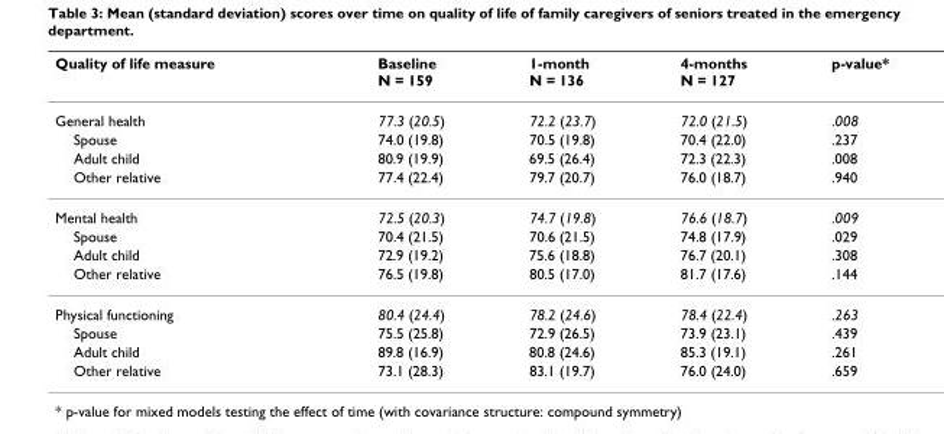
<table><thead><tr><td>Quality of life measure</td><td>Baseline N = 159</td><td>1-month N = 136</td><td>4-months N = 127</td><td>p-value*</td></tr></thead><tbody><tr><td>General health</td><td>77.3 (20.5)</td><td>72.2 (23.7)</td><td>72.0 (21.5)</td><td>.008</td></tr><tr><td>Spouse</td><td>74.0 (19.8)</td><td>70.5 (19.8)</td><td>70.4 (22.0)</td><td>.237</td></tr><tr><td>Adult child</td><td>80.9 (19.9)</td><td>69.5 (26.4)</td><td>72.3 (22.3)</td><td>.008</td></tr><tr><td>Other relative</td><td>77.4 (22.4)</td><td>79.7 (20.7)</td><td>76.0 (18.7)</td><td>.940</td></tr><tr><td>Mental health</td><td>72.5 (20.3)</td><td>74.7 (19.8)</td><td>76.6 (18.7)</td><td>.009</td></tr><tr><td>Spouse</td><td>70.4 (21.5)</td><td>70.6 (21.5)</td><td>74.8 (17.9)</td><td>.029</td></tr><tr><td>Adult child</td><td>72.9 (19.2)</td><td>75.6 (18.8)</td><td>76.7 (20.1)</td><td>.308</td></tr><tr><td>Other relative</td><td>76.5 (19.8)</td><td>80.5 (17.0)</td><td>81.7 (17.6)</td><td>.144</td></tr><tr><td>Physical functioning</td><td>80.4 (24.4)</td><td>78.2 (24.6)</td><td>78.4 (22.4)</td><td>.263</td></tr><tr><td>Spouse</td><td>75.5 (25.8)</td><td>72.9 (26.5)</td><td>73.9 (23.1)</td><td>.439</td></tr><tr><td>Adult child</td><td>89.8 (16.9)</td><td>80.8 (24.6)</td><td>85.3 (19.1)</td><td>.261</td></tr><tr><td>Other relative</td><td>73.1 (28.3)</td><td>83.1 (19.7)</td><td>76.0 (24.0)</td><td>.659</td></tr></tbody></table>